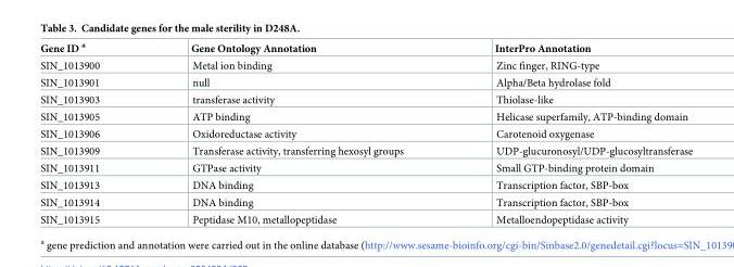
<table><thead><tr><td>Gene ID <sup>a</sup></td><td>Gene Ontology Annotation</td><td>InterPro Annotation</td></tr></thead><tbody><tr><td>SIN_1013900</td><td>Metal ion binding</td><td>Zinc finger, RING-type</td></tr><tr><td>SIN_1013901</td><td>null</td><td>Alpha/Beta hydrolase fold</td></tr><tr><td>SIN_1013903</td><td>transferase activity</td><td>Thiolase-like</td></tr><tr><td>SIN_1013905</td><td>ATP binding</td><td>Helicase superfamily, ATP-binding domain</td></tr><tr><td>SIN_1013906</td><td>Oxidoreductase activity</td><td>Carotenoid oxygenase</td></tr><tr><td>SIN_1013909</td><td>Transferase activity, transferring hexosyl groups</td><td>UDP-glucuronosyl/UDP-glucosyltransferase</td></tr><tr><td>SIN_1013911</td><td>GTPase activity</td><td>Small GTP-binding protein domain</td></tr><tr><td>SIN_1013913</td><td>DNA binding</td><td>Transcription factor, SBP-box</td></tr><tr><td>SIN_1013914</td><td>DNA binding</td><td>Transcription factor, SBP-box</td></tr><tr><td>SIN_1013915</td><td>Peptidase M10, metallopeptidase</td><td>Metalloendopeptidase activity</td></tr></tbody></table>